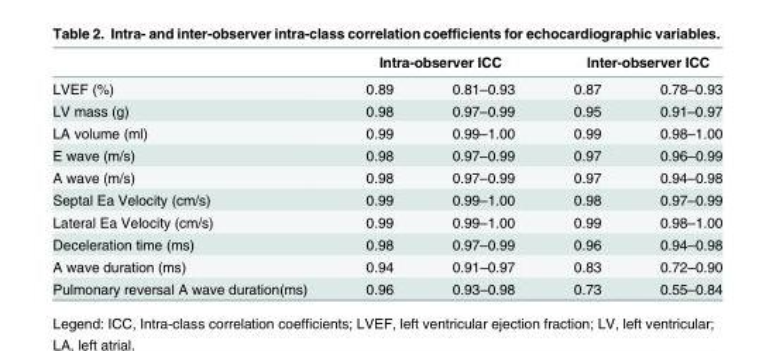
<table><thead><tr><td rowspan="2">LVEF (%)</td><td colspan="2">Intra-observer ICC</td><td colspan="2">Inter-observer ICC</td></tr><tr><td>0.89</td><td>0.81–0.93</td><td>0.87</td><td>0.78–0.93</td></tr></thead><tbody><tr><td>LV mass (g)</td><td>0.98</td><td>0.97–0.99</td><td>0.95</td><td>0.91–0.97</td></tr><tr><td>LA volume (ml)</td><td>0.99</td><td>0.99–1.00</td><td>0.99</td><td>0.98–1.00</td></tr><tr><td>E wave (m/s)</td><td>0.98</td><td>0.97–0.99</td><td>0.97</td><td>0.96–0.99</td></tr><tr><td>A wave (m/s)</td><td>0.98</td><td>0.97–0.99</td><td>0.97</td><td>0.94–0.98</td></tr><tr><td>Septal Ea Velocity (cm/s)</td><td>0.99</td><td>0.99–1.00</td><td>0.98</td><td>0.97–0.99</td></tr><tr><td>Lateral Ea Velocity (cm/s)</td><td>0.99</td><td>0.99–1.00</td><td>0.99</td><td>0.98–1.00</td></tr><tr><td>Deceleration time (ms)</td><td>0.98</td><td>0.97–0.99</td><td>0.96</td><td>0.94–0.98</td></tr><tr><td>A wave duration (ms)</td><td>0.94</td><td>0.91–0.97</td><td>0.83</td><td>0.72–0.90</td></tr><tr><td>Pulmonary reversal A wave duration(ms)</td><td>0.96</td><td>0.93–0.98</td><td>0.73</td><td>0.55–0.84</td></tr></tbody></table>